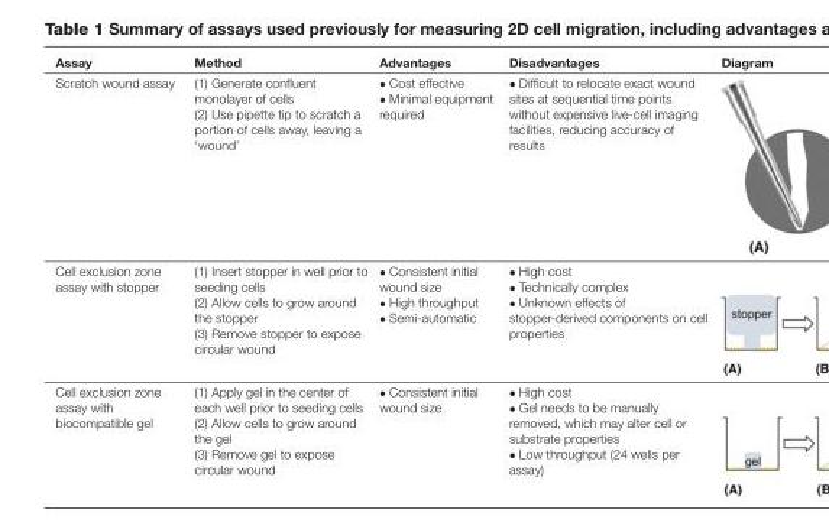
<table><thead><tr><td>Assay</td><td>Method</td><td>Advantages</td><td>Disadvantages</td><td>Diagram</td></tr></thead><tbody><tr><td>Scratch wound assay</td><td>(1) Generate confluent monolayer of cells (2) Use pipette tip to scratch a portion of cells away, leaving a ‘wound’</td><td>• Cost effective • Minimal equipment required</td><td>• Difficult to relocate exact wound sites at sequential time points without expensive live-cell imaging facilities, reducing accuracy of results</td><td></td></tr><tr><td>Cell exclusion zone assay with stopper</td><td>(1) Insert stopper in well prior to seeding cells (2) Allow cells to grow around the stopper (3) Remove stopper to expose circular wound</td><td>• Consistent initial wound size • High throughput • Semi-automatic</td><td>• High cost • Technically complex • Unknown effects of stopper-derived components on cell properties</td><td></td></tr><tr><td>Cell exclusion zone assay with biocompatible gel</td><td>(1) Apply gel in the center of each well prior to seeding cells (2) Allow cells to grow around the gel (3) Remove gel to expose circular wound</td><td>• Consistent initial wound size</td><td>• High cost • Gel needs to be manually removed, which may alter cell or substrate properties • Low throughput (24 wells per assay)</td><td></td></tr></tbody></table>